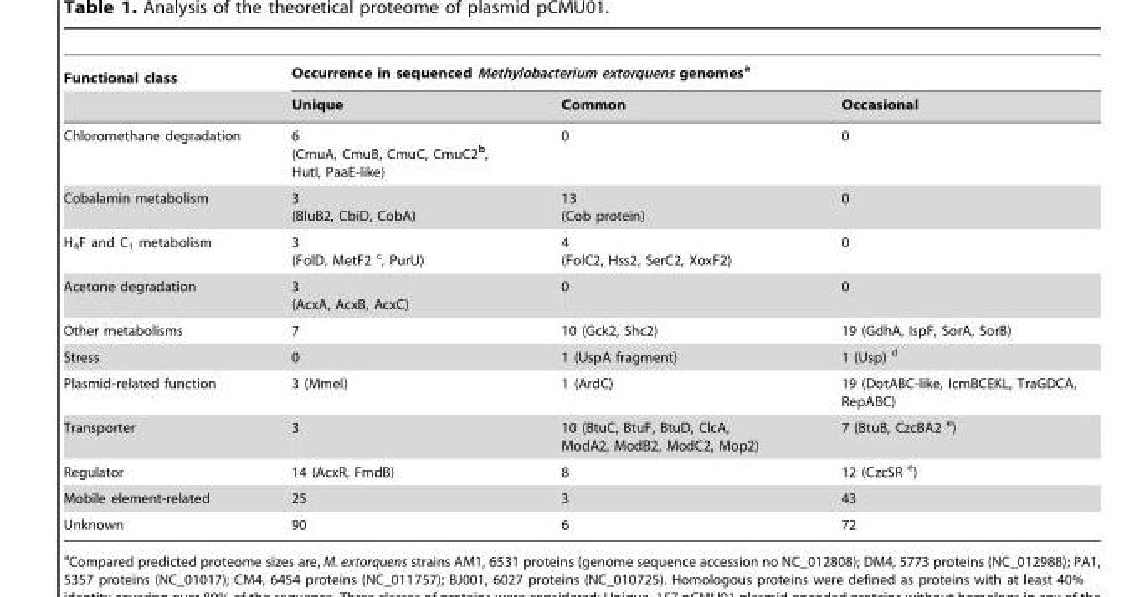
<table><thead><tr><td rowspan="2">Functional class</td><td colspan="3">Occurrence in sequenced Methylobacterium extorquens genomes<sup>a</sup></td></tr><tr><td>Unique</td><td>Common</td><td>Occasional</td></tr></thead><tbody><tr><td>Chloromethane degradation</td><td>6 (CmuA, CmuB, CmuC, CmuC2<sup>b</sup>, HutI, PaaE-like)</td><td>0</td><td>0</td></tr><tr><td>Cobalamin metabolism</td><td>3 (BluB2, CbiD, CobA)</td><td>13 (Cob protein)</td><td>0</td></tr><tr><td>H<sub>4</sub>F and C<sub>1</sub> metabolism</td><td>3 (FolD, MetF2 c, PurU)</td><td>4 (FolC2, Hss2, SerC2, XoxF2)</td><td>0</td></tr><tr><td>Acetone degradation</td><td>3 (AcxA, AcxB, AcxC)</td><td>0</td><td>0</td></tr><tr><td>Other metabolisms</td><td>7</td><td>10 (Gck2, Shc2)</td><td>19 (GdhA, IspF, SorA, SorB)</td></tr><tr><td>Stress</td><td>0</td><td>1 (UspA fragment)</td><td>1 (Usp) d</td></tr><tr><td>Plasmid-related function</td><td>3 (MmeI)</td><td>1 (ArdC)</td><td>19 (DotABC-like, IcmBCEKL, TraGDCA, RepABC)</td></tr><tr><td>Transporter</td><td>3</td><td>10 (BtuC, BtuF, BtuD, ClcA, ModA2, ModB2, ModC2, Mop2)</td><td>7 (BtuB, CzcBA2 e)</td></tr><tr><td>Regulator</td><td>14 (AcxR, FmdB)</td><td>8</td><td>12 (CzcSR e)</td></tr><tr><td>Mobile element-related</td><td>25</td><td>3</td><td>43</td></tr><tr><td>Unknown</td><td>90</td><td>6</td><td>72</td></tr></tbody></table>